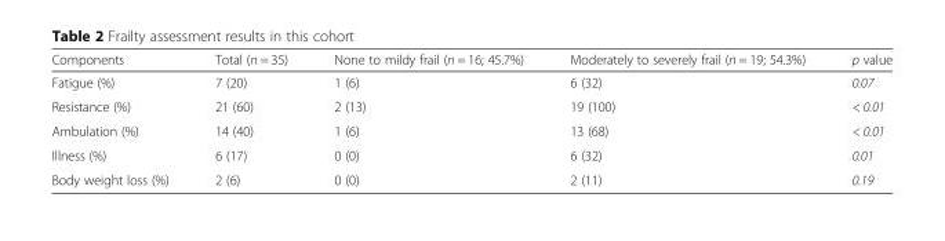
<table><thead><tr><td>Components</td><td>Total (n = 35)</td><td>None to mildy frail (n = 16; 45.7%)</td><td>Moderately to severely frail (n = 19; 54.3%)</td><td>p value</td></tr></thead><tbody><tr><td>Fatigue (%)</td><td>7 (20)</td><td>1 (6)</td><td>6 (32)</td><td>0.07</td></tr><tr><td>Resistance (%)</td><td>21 (60)</td><td>2 (13)</td><td>19 (100)</td><td>&lt; 0.01</td></tr><tr><td>Ambulation (%)</td><td>14 (40)</td><td>1 (6)</td><td>13 (68)</td><td>&lt; 0.01</td></tr><tr><td>Illness (%)</td><td>6 (17)</td><td>0 (0)</td><td>6 (32)</td><td>0.01</td></tr><tr><td>Body weight loss (%)</td><td>2 (6)</td><td>0 (0)</td><td>2 (11)</td><td>0.19</td></tr></tbody></table>